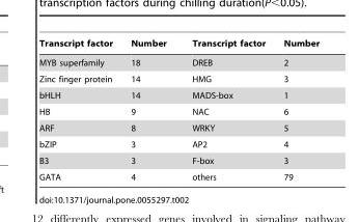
<table><thead><tr><td>Transcript factor</td><td>Number</td><td>Transcript factor</td><td>Number</td></tr></thead><tbody><tr><td>MYB superfamily</td><td>18</td><td>DREB</td><td>2</td></tr><tr><td>Zinc finger protein</td><td>14</td><td>HMG</td><td>3</td></tr><tr><td>bHLH</td><td>14</td><td>MADS-box</td><td>1</td></tr><tr><td>HB</td><td>9</td><td>NAC</td><td>6</td></tr><tr><td>ARF</td><td>8</td><td>WRKY</td><td>5</td></tr><tr><td>bZIP</td><td>3</td><td>AP2</td><td>4</td></tr><tr><td>B3</td><td>3</td><td>F-box</td><td>3</td></tr><tr><td>GATA</td><td>4</td><td>others</td><td>79</td></tr></tbody></table>